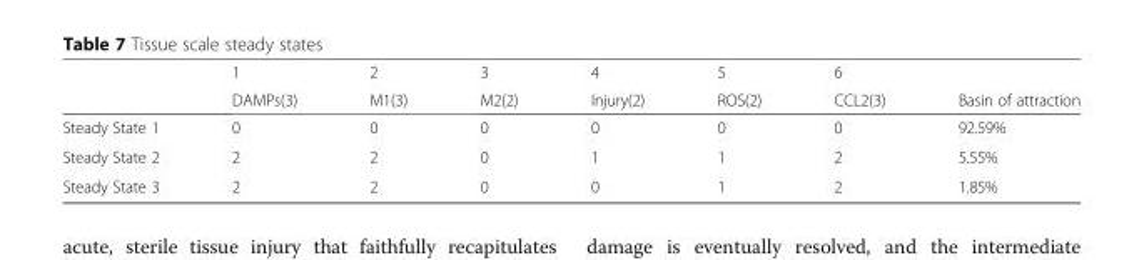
<table><thead><tr><td rowspan="2"></td><td rowspan="2">1 DAMPs(3)</td><td rowspan="2">2 M1(3)</td><td rowspan="2">3 M2(2)</td><td rowspan="2">4 Injury(2)</td><td rowspan="2">5 ROS(2)</td><td rowspan="2">6 CCL2(3)</td><td rowspan="2">Basin of attraction</td></tr><tr></tr></thead><tbody><tr><td>Steady State 1</td><td>0</td><td>0</td><td>0</td><td>0</td><td>0</td><td>0</td><td>92.59%</td></tr><tr><td>Steady State 2</td><td>2</td><td>2</td><td>0</td><td>1</td><td>1</td><td>2</td><td>5.55%</td></tr><tr><td>Steady State 3</td><td>2</td><td>2</td><td>0</td><td>0</td><td>1</td><td>2</td><td>1.85%</td></tr></tbody></table>